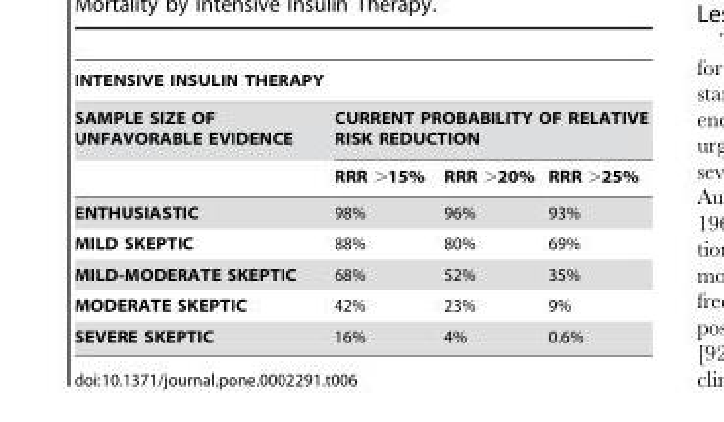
<table><thead><tr><td colspan="4">INTENSIVE INSULIN THERAPY</td></tr><tr><td rowspan="2">SAMPLE SIZE OF UNFAVORABLE EVIDENCE</td><td colspan="3">CURRENT PROBABILITY OF RELATIVE RISK REDUCTION</td></tr><tr><td>RRR &gt;15%</td><td>RRR &gt;20%</td><td>RRR &gt;25%</td></tr></thead><tbody><tr><td>ENTHUSIASTIC</td><td>98%</td><td>96%</td><td>93%</td></tr><tr><td>MILD SKEPTIC</td><td>88%</td><td>80%</td><td>69%</td></tr><tr><td>MILD-MODERATE SKEPTIC</td><td>68%</td><td>52%</td><td>35%</td></tr><tr><td>MODERATE SKEPTIC</td><td>42%</td><td>23%</td><td>9%</td></tr><tr><td>SEVERE SKEPTIC</td><td>16%</td><td>4%</td><td>0.6%</td></tr></tbody></table>